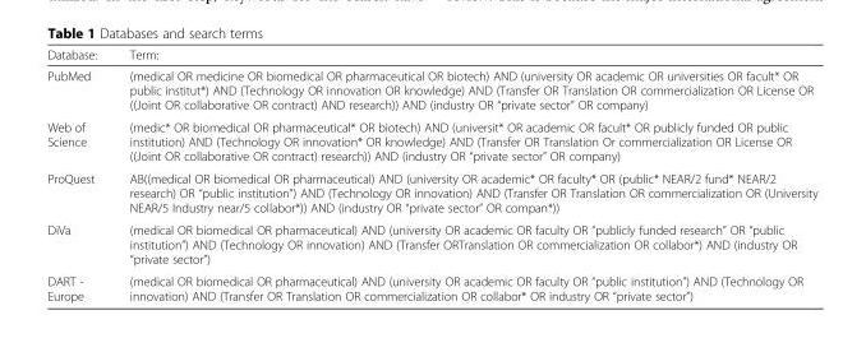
<table><thead><tr><td>Database:</td><td>Term:</td></tr></thead><tbody><tr><td>PubMed</td><td>(medical OR medicine OR biomedical OR pharmaceutical OR biotech) AND (university OR academic OR universities OR facult* OR public institut*) AND (Technology OR innovation OR knowledge) AND (Transfer OR Translation OR commercialization OR License OR ((Joint OR collaborative OR contract) AND research)) AND (industry OR “private sector” OR company)</td></tr><tr><td>Web of Science</td><td>(medic* OR biomedical OR pharmaceutical* OR biotech) AND (universit* OR academic OR facult* OR publicly funded OR public institution) AND (Technology OR innovation* OR knowledge) AND (Transfer OR Translation Or commercialization OR License OR ((Joint OR collaborative OR contract) research)) AND (industry OR “private sector” OR company)</td></tr><tr><td>ProQuest</td><td>AB((medical OR biomedical OR pharmaceutical) AND (university OR academic* OR faculty* OR (public* NEAR/2 fund* NEAR/2 research) OR “public institution”) AND (Technology OR innovation) AND (Transfer OR Translation OR commercialization OR (University NEAR/5 Industry near/5 collabor*)) AND (industry OR “private sector” OR compan*))</td></tr><tr><td>DiVa</td><td>(medical OR biomedical OR pharmaceutical) AND (university OR academic OR faculty OR “publicly funded research” OR “public institution”) AND (Technology OR innovation) AND (Transfer ORTranslation OR commercialization OR collabor*) AND (industry OR “private sector”)</td></tr><tr><td>DART - Europe</td><td>(medical OR biomedical OR pharmaceutical) AND (university OR academic OR faculty OR “public institution”) AND (Technology OR innovation) AND (Transfer OR Translation OR commercialization OR collabor* OR industry OR “private sector”)</td></tr></tbody></table>